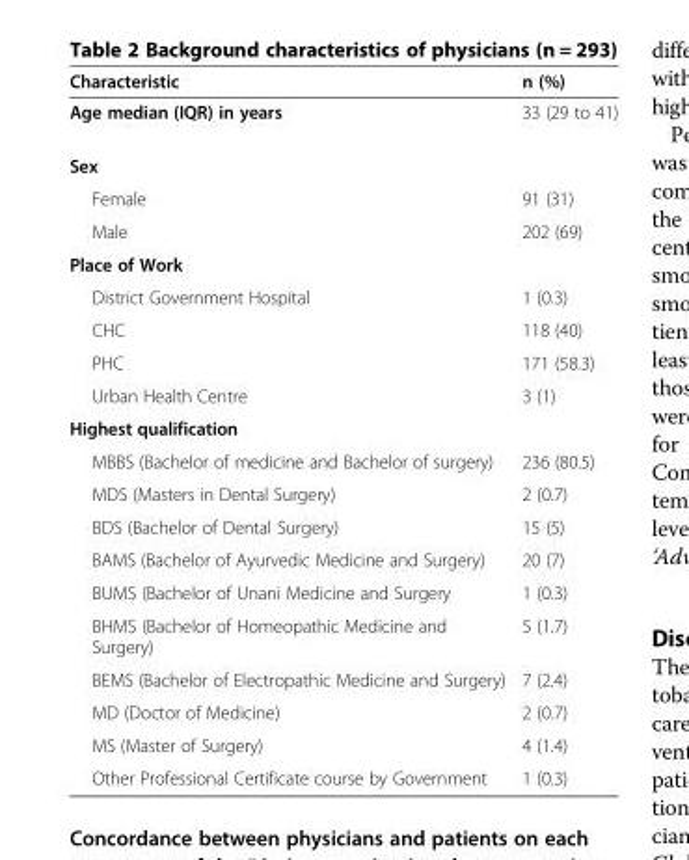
<table><thead><tr><td>Characteristic</td><td>n (%)</td></tr></thead><tbody><tr><td>Age median (IQR) in years</td><td>33 (29 to 41)</td></tr><tr><td colspan="2">Sex</td></tr><tr><td>Female</td><td>91 (31)</td></tr><tr><td>Male</td><td>202 (69)</td></tr><tr><td colspan="2">Place of Work</td></tr><tr><td>District Government Hospital</td><td>1 (0.3)</td></tr><tr><td>CHC</td><td>118 (40)</td></tr><tr><td>PHC</td><td>171 (58.3)</td></tr><tr><td>Urban Health Centre</td><td>3 (1)</td></tr><tr><td colspan="2">Highest qualification</td></tr><tr><td>MBBS (Bachelor of medicine and Bachelor of surgery)</td><td>236 (80.5)</td></tr><tr><td>MDS (Masters in Dental Surgery)</td><td>2 (0.7)</td></tr><tr><td>BDS (Bachelor of Dental Surgery)</td><td>15 (5)</td></tr><tr><td>BAMS (Bachelor of Ayurvedic Medicine and Surgery)</td><td>20 (7)</td></tr><tr><td>BUMS (Bachelor of Unani Medicine and Surgery</td><td>1 (0.3)</td></tr><tr><td>BHMS (Bachelor of Homeopathic Medicine and Surgery)</td><td>5 (1.7)</td></tr><tr><td>BEMS (Bachelor of Electropathic Medicine and Surgery)</td><td>7 (2.4)</td></tr><tr><td>MD (Doctor of Medicine)</td><td>2 (0.7)</td></tr><tr><td>MS (Master of Surgery)</td><td>4 (1.4)</td></tr><tr><td>Other Professional Certificate course by Government</td><td>1 (0.3)</td></tr></tbody></table>